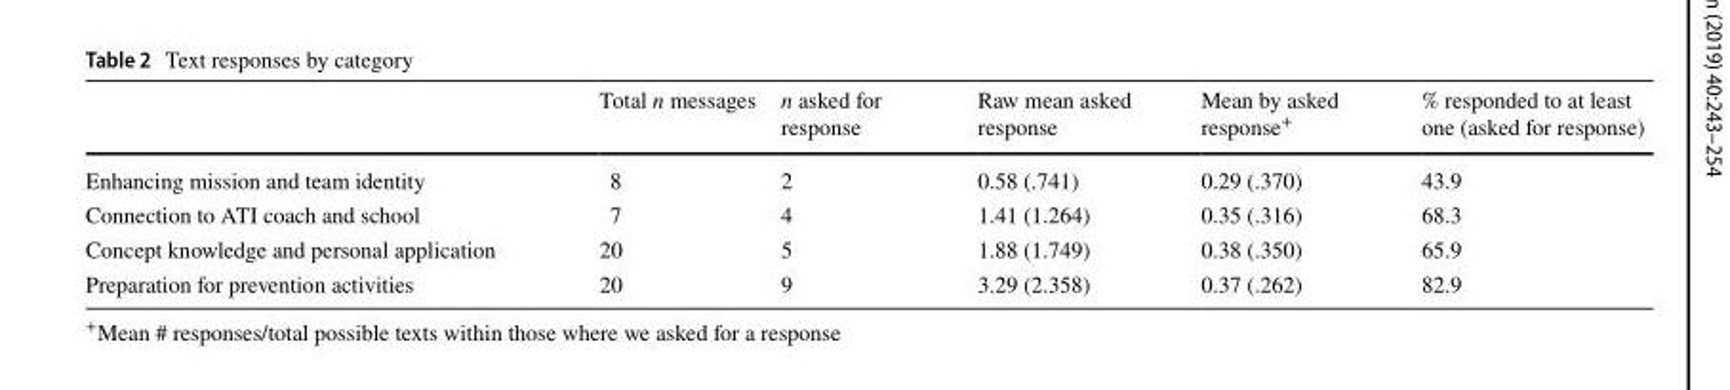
<table><thead><tr><td></td><td>Total n messages</td><td>n asked for response</td><td>Raw mean asked response</td><td>Mean by asked response<sup>+</sup></td><td>% responded to at least one (asked for response)</td></tr></thead><tbody><tr><td>Enhancing mission and team identity</td><td>8</td><td>2</td><td>0.58 (.741)</td><td>0.29 (.370)</td><td>43.9</td></tr><tr><td>Connection to ATI coach and school</td><td>7</td><td>4</td><td>1.41 (1.264)</td><td>0.35 (.316)</td><td>68.3</td></tr><tr><td>Concept knowledge and personal application</td><td>20</td><td>5</td><td>1.88 (1.749)</td><td>0.38 (.350)</td><td>65.9</td></tr><tr><td>Preparation for prevention activities</td><td>20</td><td>9</td><td>3.29 (2.358)</td><td>0.37 (.262)</td><td>82.9</td></tr></tbody></table>